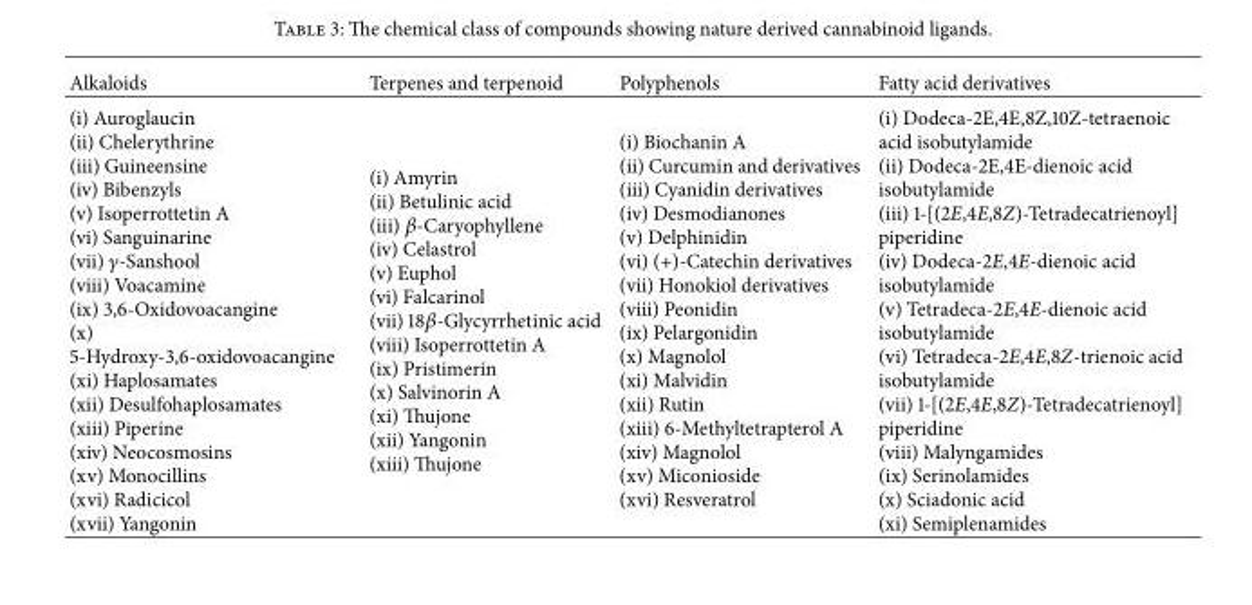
<table><thead><tr><td>Alkaloids</td><td>Terpenes and terpenoid</td><td>Polyphenols</td><td>Fatty acid derivatives</td></tr></thead><tbody><tr><td>(i) Auroglaucin (ii) Chelerythrine (iii) Guineensine (iv) Bibenzyls (v) Isoperrottetin A (vi) Sanguinarine (vii) 𝛾-Sanshool (viii) Voacamine (ix) 3,6-Oxidovoacangine (x) 5-Hydroxy-3,6-oxidovoacangine (xi) Haplosamates (xii) Desulfohaplosamates (xiii) Piperine (xiv) Neocosmosins (xv) Monocillins (xvi) Radicicol (xvii) Yangonin</td><td>(i) Amyrin (ii) Betulinic acid (iii) 𝛽-Caryophyllene (iv) Celastrol (v) Euphol (vi) Falcarinol (vii) 18𝛽-Glycyrrhetinic acid (viii) Isoperrottetin A (ix) Pristimerin (x) Salvinorin A (xi) Thujone (xii) Yangonin (xiii) Thujone</td><td>(i) Biochanin A (ii) Curcumin and derivatives (iii) Cyanidin derivatives (iv) Desmodianones (v) Delphinidin (vi) (+)-Catechin derivatives (vii) Honokiol derivatives (viii) Peonidin (ix) Pelargonidin (x) Magnolol (xi) Malvidin (xii) Rutin (xiii) 6-Methyltetrapterol A (xiv) Magnolol (xv) Miconioside (xvi) Resveratrol</td><td>(i) Dodeca-2E,4E,8Z,10Z-tetraenoic acid isobutylamide (ii) Dodeca-2E,4E-dienoic acid isobutylamide (iii) 1-[(2E,4E,8Z)-Tetradecatrienoyl] piperidine (iv) Dodeca-2E,4E-dienoic acid isobutylamide (v) Tetradeca-2E,4E-dienoic acid isobutylamide (vi) Tetradeca-2E,4E,8Z-trienoic acid isobutylamide (vii) 1-[(2E,4E,8Z)-Tetradecatrienoyl] piperidine (viii) Malyngamides (ix) Serinolamides (x) Sciadonic acid (xi) Semiplenamides</td></tr></tbody></table>